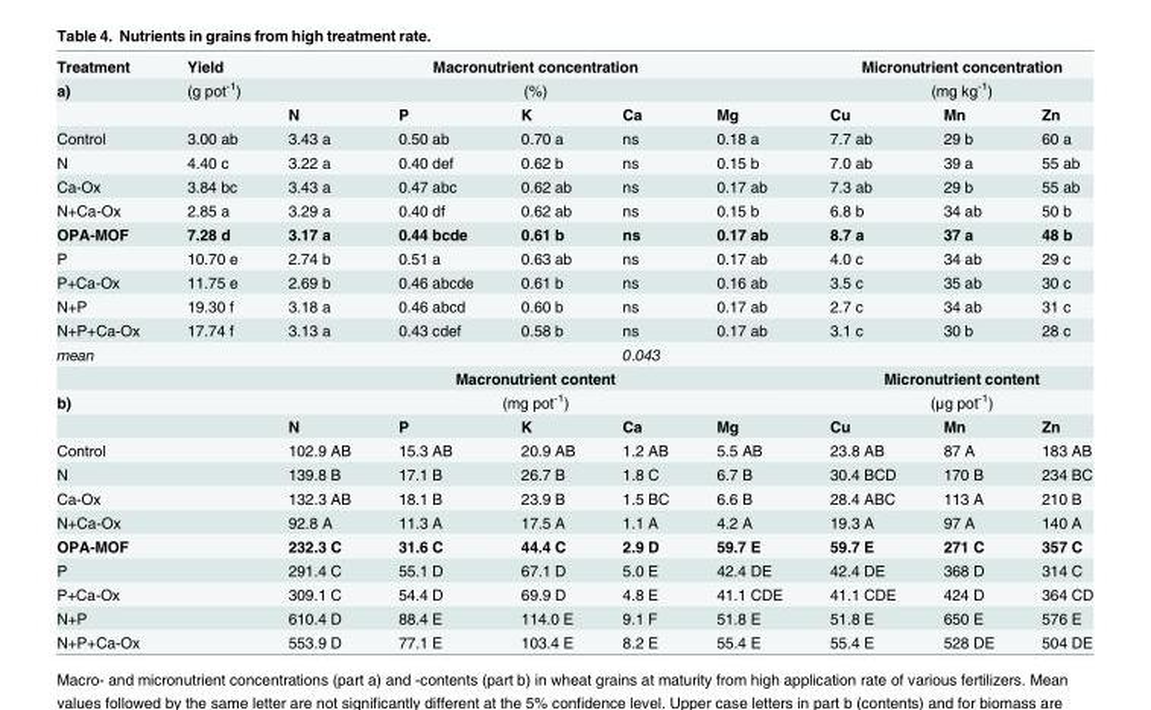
<table><tbody><tr><td>Treatment</td><td>Yield</td><td colspan="5">Macronutrient concentration</td><td colspan="3">Micronutrient concentration</td></tr><tr><td rowspan="2">a)</td><td>(g pot<sup>-1</sup>)</td><td colspan="5">(%)</td><td colspan="3">(mg kg<sup>-1</sup>)</td></tr><tr><td></td><td>N</td><td>P</td><td>K</td><td>Ca</td><td>Mg</td><td>Cu</td><td>Mn</td><td>Zn</td></tr><tr><td>Control</td><td>3.00 ab</td><td>3.43 a</td><td>0.50 ab</td><td>0.70 a</td><td>ns</td><td>0.18 a</td><td>7.7 ab</td><td>29 b</td><td>60 a</td></tr><tr><td>N</td><td>4.40 c</td><td>3.22 a</td><td>0.40 def</td><td>0.62 b</td><td>ns</td><td>0.15 b</td><td>7.0 ab</td><td>39 a</td><td>55 ab</td></tr><tr><td>Ca-Ox</td><td>3.84 bc</td><td>3.43 a</td><td>0.47 abc</td><td>0.62 ab</td><td>ns</td><td>0.17 ab</td><td>7.3 ab</td><td>29 b</td><td>55 ab</td></tr><tr><td>N+Ca-Ox</td><td>2.85 a</td><td>3.29 a</td><td>0.40 df</td><td>0.62 ab</td><td>ns</td><td>0.15 b</td><td>6.8 b</td><td>34 ab</td><td>50 b</td></tr><tr><td>OPA-MOF</td><td>7.28 d</td><td>3.17 a</td><td>0.44 bcde</td><td>0.61 b</td><td>ns</td><td>0.17 ab</td><td>8.7 a</td><td>37 a</td><td>48 b</td></tr><tr><td>P</td><td>10.70 e</td><td>2.74 b</td><td>0.51 a</td><td>0.63 ab</td><td>ns</td><td>0.17 ab</td><td>4.0 c</td><td>34 ab</td><td>29 c</td></tr><tr><td>P+Ca-Ox</td><td>11.75 e</td><td>2.69 b</td><td>0.46 abcde</td><td>0.61 b</td><td>ns</td><td>0.16 ab</td><td>3.5 c</td><td>35 ab</td><td>30 c</td></tr><tr><td>N+P</td><td>19.30 f</td><td>3.18 a</td><td>0.46 abcd</td><td>0.60 b</td><td>ns</td><td>0.17 ab</td><td>2.7 c</td><td>34 ab</td><td>31 c</td></tr><tr><td>N+P+Ca-Ox</td><td>17.74 f</td><td>3.13 a</td><td>0.43 cdef</td><td>0.58 b</td><td>ns</td><td>0.17 ab</td><td>3.1 c</td><td>30 b</td><td>28 c</td></tr><tr><td rowspan="2">mean</td><td></td><td></td><td></td><td></td><td>0.043</td><td></td><td></td><td></td><td></td></tr><tr><td></td><td colspan="5">Macronutrient content</td><td colspan="3">Micronutrient content</td></tr><tr><td rowspan="2">b)</td><td></td><td colspan="5">(mg pot<sup>-1</sup>)</td><td colspan="3">(μg pot<sup>-1</sup>)</td></tr><tr><td></td><td>N</td><td>P</td><td>K</td><td>Ca</td><td>Mg</td><td>Cu</td><td>Mn</td><td>Zn</td></tr><tr><td>Control</td><td></td><td>102.9 AB</td><td>15.3 AB</td><td>20.9 AB</td><td>1.2 AB</td><td>5.5 AB</td><td>23.8 AB</td><td>87 A</td><td>183 AB</td></tr><tr><td>N</td><td></td><td>139.8 B</td><td>17.1 B</td><td>26.7 B</td><td>1.8 C</td><td>6.7 B</td><td>30.4 BCD</td><td>170 B</td><td>234 BC</td></tr><tr><td>Ca-Ox</td><td></td><td>132.3 AB</td><td>18.1 B</td><td>23.9 B</td><td>1.5 BC</td><td>6.6 B</td><td>28.4 ABC</td><td>113 A</td><td>210 B</td></tr><tr><td>N+Ca-Ox</td><td></td><td>92.8 A</td><td>11.3 A</td><td>17.5 A</td><td>1.1 A</td><td>4.2 A</td><td>19.3 A</td><td>97 A</td><td>140 A</td></tr><tr><td>OPA-MOF</td><td></td><td>232.3 C</td><td>31.6 C</td><td>44.4 C</td><td>2.9 D</td><td>59.7 E</td><td>59.7 E</td><td>271 C</td><td>357 C</td></tr><tr><td>P</td><td></td><td>291.4 C</td><td>55.1 D</td><td>67.1 D</td><td>5.0 E</td><td>42.4 DE</td><td>42.4 DE</td><td>368 D</td><td>314 C</td></tr><tr><td>P+Ca-Ox</td><td></td><td>309.1 C</td><td>54.4 D</td><td>69.9 D</td><td>4.8 E</td><td>41.1 CDE</td><td>41.1 CDE</td><td>424 D</td><td>364 CD</td></tr><tr><td>N+P</td><td></td><td>610.4 D</td><td>88.4 E</td><td>114.0 E</td><td>9.1 F</td><td>51.8 E</td><td>51.8 E</td><td>650 E</td><td>576 E</td></tr><tr><td>N+P+Ca-Ox</td><td></td><td>553.9 D</td><td>77.1 E</td><td>103.4 E</td><td>8.2 E</td><td>55.4 E</td><td>55.4 E</td><td>528 DE</td><td>504 DE</td></tr></tbody></table>